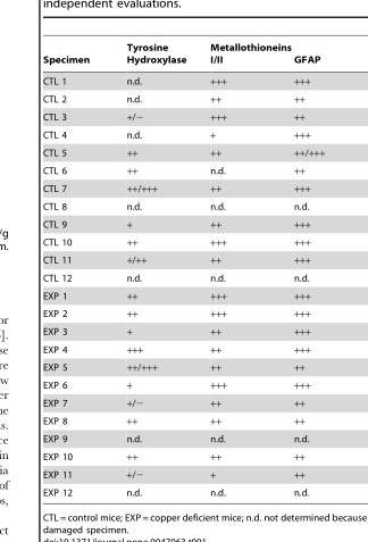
<table><thead><tr><td>Specimen</td><td>Tyrosine Hydroxylase</td><td>Metallothioneins I/II</td><td>GFAP</td></tr></thead><tbody><tr><td>CTL 1</td><td>n.d.</td><td>+++</td><td>+++</td></tr><tr><td>CTL 2</td><td>n.d.</td><td>++</td><td>++</td></tr><tr><td>CTL 3</td><td>+/−</td><td>+++</td><td>++</td></tr><tr><td>CTL 4</td><td>n.d.</td><td>+</td><td>+++</td></tr><tr><td>CTL 5</td><td>++</td><td>++</td><td>++/+++</td></tr><tr><td>CTL 6</td><td>++</td><td>n.d.</td><td>++</td></tr><tr><td>CTL 7</td><td>++/+++</td><td>++</td><td>+++</td></tr><tr><td>CTL 8</td><td>n.d.</td><td>n.d.</td><td>n.d.</td></tr><tr><td>CTL 9</td><td>+</td><td>++</td><td>+++</td></tr><tr><td>CTL 10</td><td>++</td><td>+++</td><td>+++</td></tr><tr><td>CTL 11</td><td>+/++</td><td>++</td><td>+++</td></tr><tr><td>CTL 12</td><td>n.d.</td><td>n.d.</td><td>n.d.</td></tr><tr><td>EXP 1</td><td>++</td><td>+++</td><td>+++</td></tr><tr><td>EXP 2</td><td>++</td><td>+++</td><td>+++</td></tr><tr><td>EXP 3</td><td>+</td><td>++</td><td>+++</td></tr><tr><td>EXP 4</td><td>+++</td><td>++</td><td>+++</td></tr><tr><td>EXP 5</td><td>++/+++</td><td>++</td><td>++</td></tr><tr><td>EXP 6</td><td>+</td><td>+++</td><td>+++</td></tr><tr><td>EXP 7</td><td>+/−</td><td>++</td><td>++</td></tr><tr><td>EXP 8</td><td>++</td><td>++</td><td>++</td></tr><tr><td>EXP 9</td><td>n.d.</td><td>n.d.</td><td>n.d.</td></tr><tr><td>EXP 10</td><td>++</td><td>++</td><td>++</td></tr><tr><td>EXP 11</td><td>+/−</td><td>+</td><td>++</td></tr><tr><td>EXP 12</td><td>n.d.</td><td>n.d.</td><td>n.d.</td></tr></tbody></table>